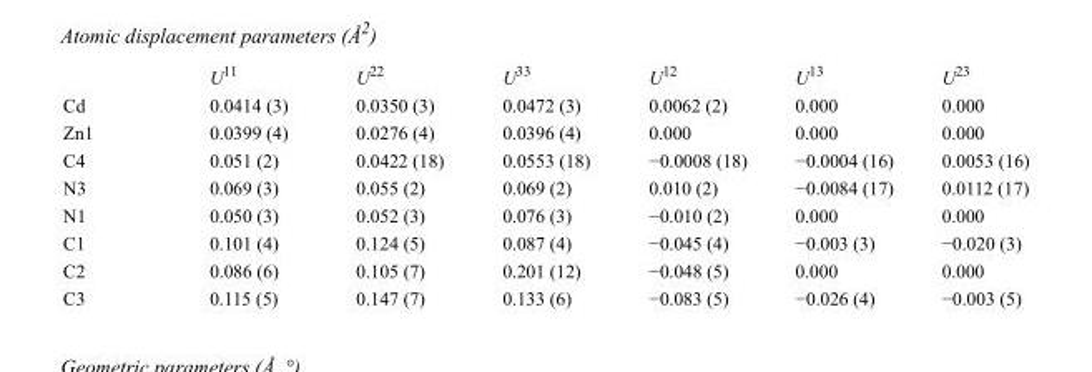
<table><thead><tr><td></td><td>U<sup>11</sup></td><td>U<sup>22</sup></td><td>U<sup>33</sup></td><td>U<sup>12</sup></td><td>U<sup>13</sup></td><td>U<sup>23</sup></td></tr></thead><tbody><tr><td>Cd</td><td>0.0414 (3)</td><td>0.0350 (3)</td><td>0.0472 (3)</td><td>0.0062 (2)</td><td>0.000</td><td>0.000</td></tr><tr><td>Zn1</td><td>0.0399 (4)</td><td>0.0276 (4)</td><td>0.0396 (4)</td><td>0.000</td><td>0.000</td><td>0.000</td></tr><tr><td>C4</td><td>0.051 (2)</td><td>0.0422 (18)</td><td>0.0553 (18)</td><td>−0.0008 (18)</td><td>−0.0004 (16)</td><td>0.0053 (16)</td></tr><tr><td>N3</td><td>0.069 (3)</td><td>0.055 (2)</td><td>0.069 (2)</td><td>0.010 (2)</td><td>−0.0084 (17)</td><td>0.0112 (17)</td></tr><tr><td>N1</td><td>0.050 (3)</td><td>0.052 (3)</td><td>0.076 (3)</td><td>−0.010 (2)</td><td>0.000</td><td>0.000</td></tr><tr><td>C1</td><td>0.101 (4)</td><td>0.124 (5)</td><td>0.087 (4)</td><td>−0.045 (4)</td><td>−0.003 (3)</td><td>−0.020 (3)</td></tr><tr><td>C2</td><td>0.086 (6)</td><td>0.105 (7)</td><td>0.201 (12)</td><td>−0.048 (5)</td><td>0.000</td><td>0.000</td></tr><tr><td>C3</td><td>0.115 (5)</td><td>0.147 (7)</td><td>0.133 (6)</td><td>−0.083 (5)</td><td>−0.026 (4)</td><td>−0.003 (5)</td></tr></tbody></table>